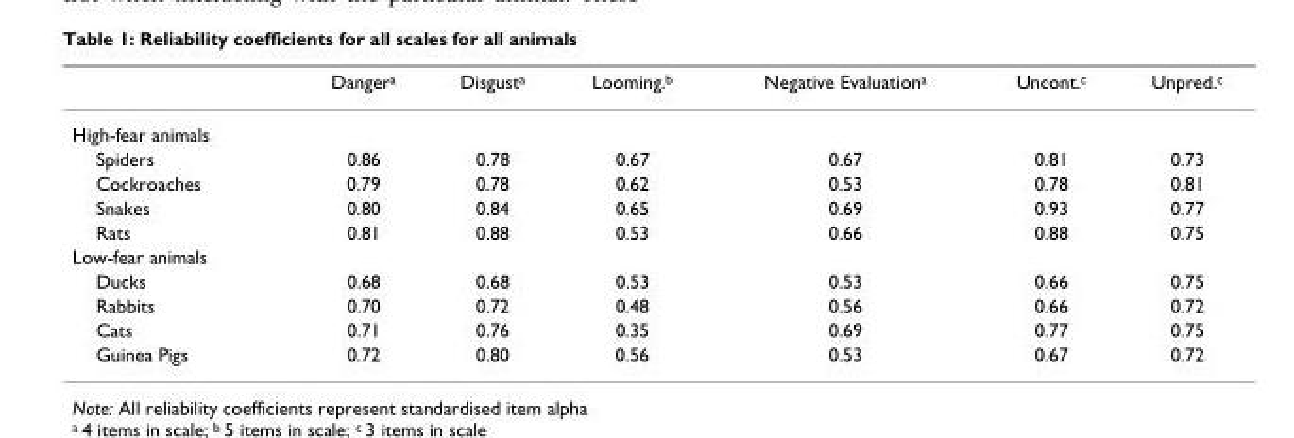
<table><thead><tr><td></td><td>Danger<sup>a</sup></td><td>Disgust<sup>a</sup></td><td>Looming.<sup>b</sup></td><td>Negative Evaluation<sup>a</sup></td><td>Uncont.<sup>c</sup></td><td>Unpred.<sup>c</sup></td></tr></thead><tbody><tr><td colspan="7">High-fear animals</td></tr><tr><td>Spiders</td><td>0.86</td><td>0.78</td><td>0.67</td><td>0.67</td><td>0.81</td><td>0.73</td></tr><tr><td>Cockroaches</td><td>0.79</td><td>0.78</td><td>0.62</td><td>0.53</td><td>0.78</td><td>0.81</td></tr><tr><td>Snakes</td><td>0.80</td><td>0.84</td><td>0.65</td><td>0.69</td><td>0.93</td><td>0.77</td></tr><tr><td>Rats</td><td>0.81</td><td>0.88</td><td>0.53</td><td>0.66</td><td>0.88</td><td>0.75</td></tr><tr><td colspan="7">Low-fear animals</td></tr><tr><td>Ducks</td><td>0.68</td><td>0.68</td><td>0.53</td><td>0.53</td><td>0.66</td><td>0.75</td></tr><tr><td>Rabbits</td><td>0.70</td><td>0.72</td><td>0.48</td><td>0.56</td><td>0.66</td><td>0.72</td></tr><tr><td>Cats</td><td>0.71</td><td>0.76</td><td>0.35</td><td>0.69</td><td>0.77</td><td>0.75</td></tr><tr><td>Guinea Pigs</td><td>0.72</td><td>0.80</td><td>0.56</td><td>0.53</td><td>0.67</td><td>0.72</td></tr></tbody></table>